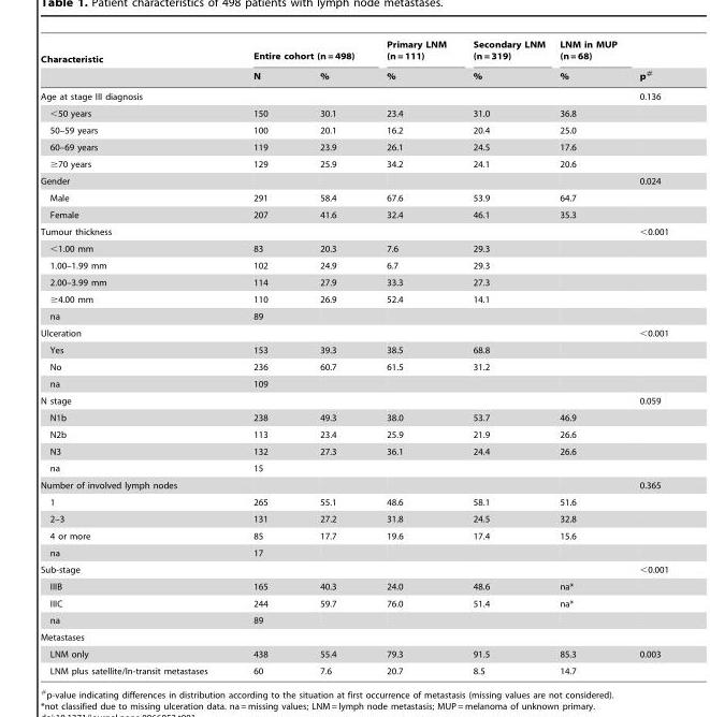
<table><thead><tr><td rowspan="2">Characteristic</td><td colspan="2">Entire cohort (n = 498)</td><td rowspan="2">Primary LNM (n = 111) %</td><td rowspan="2">Secondary LNM (n = 319) %</td><td rowspan="2">LNM in MUP (n = 68) %</td><td rowspan="2">p#</td></tr><tr><td>N</td><td>%</td></tr></thead><tbody><tr><td>Age at stage III diagnosis</td><td></td><td></td><td></td><td></td><td></td><td>0.136</td></tr><tr><td>&lt;50 years</td><td>150</td><td>30.1</td><td>23.4</td><td>31.0</td><td>36.8</td><td></td></tr><tr><td>50–59 years</td><td>100</td><td>20.1</td><td>16.2</td><td>20.4</td><td>25.0</td><td></td></tr><tr><td>60–69 years</td><td>119</td><td>23.9</td><td>26.1</td><td>24.5</td><td>17.6</td><td></td></tr><tr><td>≥70 years</td><td>129</td><td>25.9</td><td>34.2</td><td>24.1</td><td>20.6</td><td></td></tr><tr><td>Gender</td><td></td><td></td><td></td><td></td><td></td><td>0.024</td></tr><tr><td>Male</td><td>291</td><td>58.4</td><td>67.6</td><td>53.9</td><td>64.7</td><td></td></tr><tr><td>Female</td><td>207</td><td>41.6</td><td>32.4</td><td>46.1</td><td>35.3</td><td></td></tr><tr><td>Tumour thickness</td><td></td><td></td><td></td><td></td><td></td><td>&lt;0.001</td></tr><tr><td>&lt;1.00 mm</td><td>83</td><td>20.3</td><td>7.6</td><td>29.3</td><td></td><td></td></tr><tr><td>1.00–1.99 mm</td><td>102</td><td>24.9</td><td>6.7</td><td>29.3</td><td></td><td></td></tr><tr><td>2.00–3.99 mm</td><td>114</td><td>27.9</td><td>33.3</td><td>27.3</td><td></td><td></td></tr><tr><td>≥4.00 mm</td><td>110</td><td>26.9</td><td>52.4</td><td>14.1</td><td></td><td></td></tr><tr><td>na</td><td>89</td><td></td><td></td><td></td><td></td><td></td></tr><tr><td>Ulceration</td><td></td><td></td><td></td><td></td><td></td><td>&lt;0.001</td></tr><tr><td>Yes</td><td>153</td><td>39.3</td><td>38.5</td><td>68.8</td><td></td><td></td></tr><tr><td>No</td><td>236</td><td>60.7</td><td>61.5</td><td>31.2</td><td></td><td></td></tr><tr><td>na</td><td>109</td><td></td><td></td><td></td><td></td><td></td></tr><tr><td>N stage</td><td></td><td></td><td></td><td></td><td></td><td>0.059</td></tr><tr><td>N1b</td><td>238</td><td>49.3</td><td>38.0</td><td>53.7</td><td>46.9</td><td></td></tr><tr><td>N2b</td><td>113</td><td>23.4</td><td>25.9</td><td>21.9</td><td>26.6</td><td></td></tr><tr><td>N3</td><td>132</td><td>27.3</td><td>36.1</td><td>24.4</td><td>26.6</td><td></td></tr><tr><td>na</td><td>15</td><td></td><td></td><td></td><td></td><td></td></tr><tr><td>Number of involved lymph nodes</td><td></td><td></td><td></td><td></td><td></td><td>0.365</td></tr><tr><td>1</td><td>265</td><td>55.1</td><td>48.6</td><td>58.1</td><td>51.6</td><td></td></tr><tr><td>2–3</td><td>131</td><td>27.2</td><td>31.8</td><td>24.5</td><td>32.8</td><td></td></tr><tr><td>4 or more</td><td>85</td><td>17.7</td><td>19.6</td><td>17.4</td><td>15.6</td><td></td></tr><tr><td>na</td><td>17</td><td></td><td></td><td></td><td></td><td></td></tr><tr><td>Sub-stage</td><td></td><td></td><td></td><td></td><td></td><td>&lt;0.001</td></tr><tr><td>IIIB</td><td>165</td><td>40.3</td><td>24.0</td><td>48.6</td><td>na*</td><td></td></tr><tr><td>IIIC</td><td>244</td><td>59.7</td><td>76.0</td><td>51.4</td><td>na*</td><td></td></tr><tr><td>na</td><td>89</td><td></td><td></td><td></td><td></td><td></td></tr><tr><td colspan="7">Metastases</td></tr><tr><td>LNM only</td><td>438</td><td>55.4</td><td>79.3</td><td>91.5</td><td>85.3</td><td>0.003</td></tr><tr><td>LNM plus satellite/In-transit metastases</td><td>60</td><td>7.6</td><td>20.7</td><td>8.5</td><td>14.7</td><td></td></tr></tbody></table>